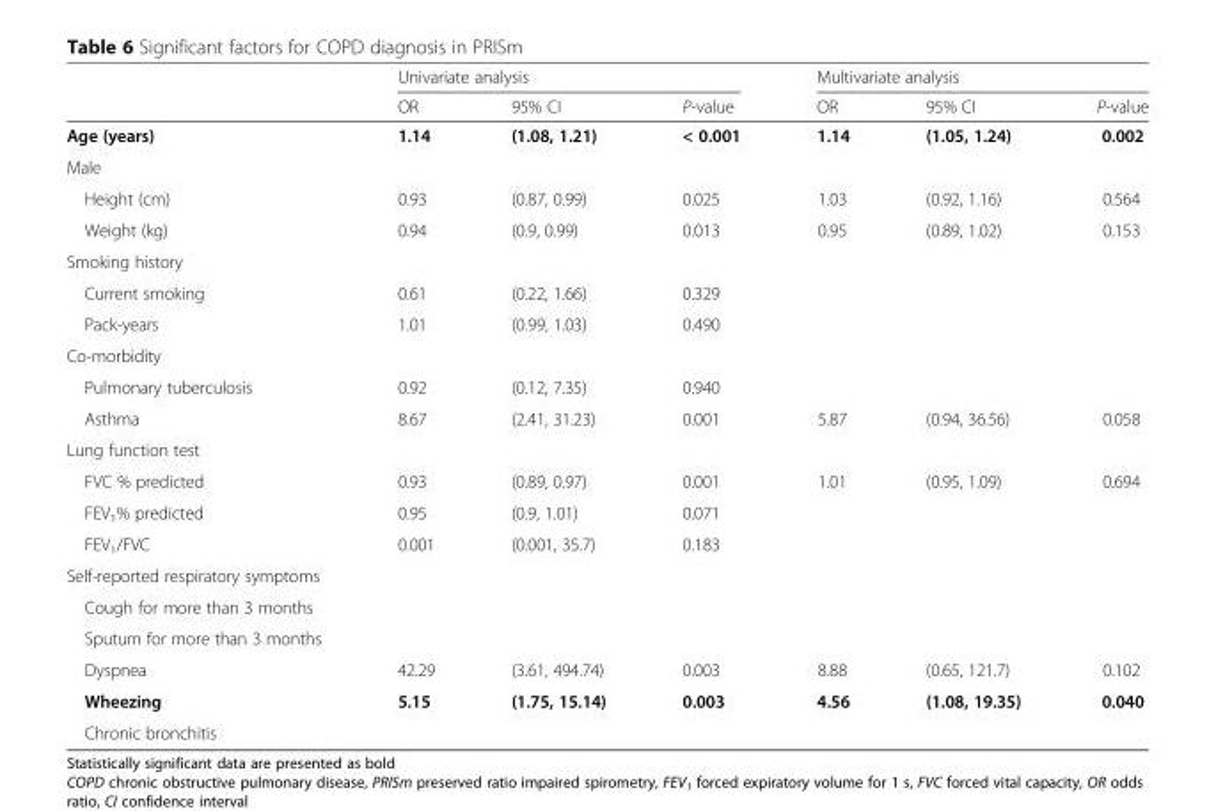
<table><thead><tr><td rowspan="2"></td><td colspan="3">Univariate analysis</td><td colspan="3">Multivariate analysis</td></tr><tr><td>OR</td><td>95% CI</td><td>P-value</td><td>OR</td><td>95% CI</td><td>P-value</td></tr></thead><tbody><tr><td>Age (years)</td><td>1.14</td><td>(1.08, 1.21)</td><td>&lt; 0.001</td><td>1.14</td><td>(1.05, 1.24)</td><td>0.002</td></tr><tr><td colspan="7">Male</td></tr><tr><td>Height (cm)</td><td>0.93</td><td>(0.87, 0.99)</td><td>0.025</td><td>1.03</td><td>(0.92, 1.16)</td><td>0.564</td></tr><tr><td>Weight (kg)</td><td>0.94</td><td>(0.9, 0.99)</td><td>0.013</td><td>0.95</td><td>(0.89, 1.02)</td><td>0.153</td></tr><tr><td colspan="7">Smoking history</td></tr><tr><td>Current smoking</td><td>0.61</td><td>(0.22, 1.66)</td><td>0.329</td><td></td><td></td><td></td></tr><tr><td>Pack-years</td><td>1.01</td><td>(0.99, 1.03)</td><td>0.490</td><td></td><td></td><td></td></tr><tr><td colspan="7">Co-morbidity</td></tr><tr><td>Pulmonary tuberculosis</td><td>0.92</td><td>(0.12, 7.35)</td><td>0.940</td><td></td><td></td><td></td></tr><tr><td>Asthma</td><td>8.67</td><td>(2.41, 31.23)</td><td>0.001</td><td>5.87</td><td>(0.94, 36.56)</td><td>0.058</td></tr><tr><td colspan="7">Lung function test</td></tr><tr><td>FVC % predicted</td><td>0.93</td><td>(0.89, 0.97)</td><td>0.001</td><td>1.01</td><td>(0.95, 1.09)</td><td>0.694</td></tr><tr><td>FEV<sub>1</sub>% predicted</td><td>0.95</td><td>(0.9, 1.01)</td><td>0.071</td><td></td><td></td><td></td></tr><tr><td>FEV<sub>1</sub>/FVC</td><td>0.001</td><td>(0.001, 35.7)</td><td>0.183</td><td></td><td></td><td></td></tr><tr><td colspan="7">Self-reported respiratory symptoms</td></tr><tr><td colspan="7">Cough for more than 3 months</td></tr><tr><td colspan="7">Sputum for more than 3 months</td></tr><tr><td>Dyspnea</td><td>42.29</td><td>(3.61, 494.74)</td><td>0.003</td><td>8.88</td><td>(0.65, 121.7)</td><td>0.102</td></tr><tr><td>Wheezing</td><td>5.15</td><td>(1.75, 15.14)</td><td>0.003</td><td>4.56</td><td>(1.08, 19.35)</td><td>0.040</td></tr><tr><td>Chronic bronchitis</td><td></td><td></td><td></td><td></td><td></td><td></td></tr></tbody></table>